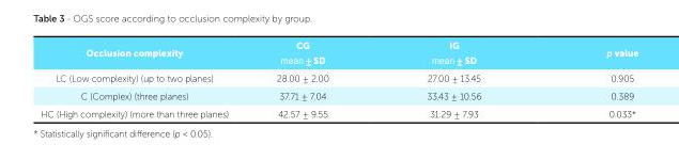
<table><thead><tr><td>Occlusion complexity</td><td>CG mean ± SD</td><td>IG mean ± SD</td><td>p value</td></tr></thead><tbody><tr><td>LC (Low complexity) (up to two planes)</td><td>28.00 ± 2.00</td><td>27.00 ± 13.45</td><td>0.905</td></tr><tr><td>C (Complex) (three planes)</td><td>37.71 ± 7.04</td><td>33.43 ± 10.56</td><td>0.389</td></tr><tr><td>HC (High complexity) (more than three planes)</td><td>42.57 ± 9.55</td><td>31.29 ± 7.93</td><td>0.033*</td></tr></tbody></table>